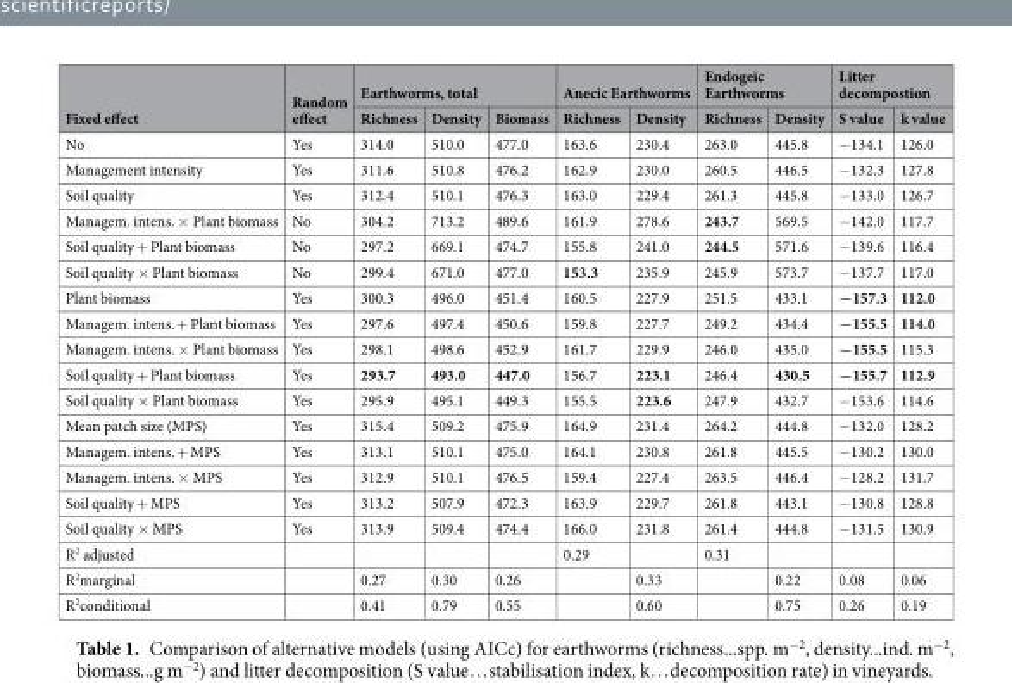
<table><thead><tr><td rowspan="2">Fixed effect</td><td rowspan="2">Random effect</td><td colspan="3">Earthworms, total</td><td colspan="2">Anecic Earthworms</td><td colspan="2">Endogeic Earthworms</td><td colspan="2">Litter decompostion</td></tr><tr><td>Richness</td><td>Density</td><td>Biomass</td><td>Richness</td><td>Density</td><td>Richness</td><td>Density</td><td>S value</td><td>k value</td></tr></thead><tbody><tr><td>No</td><td>Yes</td><td>314.0</td><td>510.0</td><td>477.0</td><td>163.6</td><td>230.4</td><td>263.0</td><td>445.8</td><td>−134.1</td><td>126.0</td></tr><tr><td>Management intensity</td><td>Yes</td><td>311.6</td><td>510.8</td><td>476.2</td><td>162.9</td><td>230.0</td><td>260.5</td><td>446.5</td><td>−132.3</td><td>127.8</td></tr><tr><td>Soil quality</td><td>Yes</td><td>312.4</td><td>510.1</td><td>476.3</td><td>163.0</td><td>229.4</td><td>261.3</td><td>445.8</td><td>−133.0</td><td>126.7</td></tr><tr><td>Managem. intens. × Plant biomass</td><td>No</td><td>304.2</td><td>713.2</td><td>489.6</td><td>161.9</td><td>278.6</td><td>243.7</td><td>569.5</td><td>−142.0</td><td>117.7</td></tr><tr><td>Soil quality + Plant biomass</td><td>No</td><td>297.2</td><td>669.1</td><td>474.7</td><td>155.8</td><td>241.0</td><td>244.5</td><td>571.6</td><td>−139.6</td><td>116.4</td></tr><tr><td>Soil quality × Plant biomass</td><td>No</td><td>299.4</td><td>671.0</td><td>477.0</td><td>153.3</td><td>235.9</td><td>245.9</td><td>573.7</td><td>−137.7</td><td>117.0</td></tr><tr><td>Plant biomass</td><td>Yes</td><td>300.3</td><td>496.0</td><td>451.4</td><td>160.5</td><td>227.9</td><td>251.5</td><td>433.1</td><td>−157.3</td><td>112.0</td></tr><tr><td>Managem. intens. + Plant biomass</td><td>Yes</td><td>297.6</td><td>497.4</td><td>450.6</td><td>159.8</td><td>227.7</td><td>249.2</td><td>434.4</td><td>−155.5</td><td>114.0</td></tr><tr><td>Managem. intens. × Plant biomass</td><td>Yes</td><td>298.1</td><td>498.6</td><td>452.9</td><td>161.7</td><td>229.9</td><td>246.0</td><td>435.0</td><td>−155.5</td><td>115.3</td></tr><tr><td>Soil quality + Plant biomass</td><td>Yes</td><td>293.7</td><td>493.0</td><td>447.0</td><td>156.7</td><td>223.1</td><td>246.4</td><td>430.5</td><td>−155.7</td><td>112.9</td></tr><tr><td>Soil quality × Plant biomass</td><td>Yes</td><td>295.9</td><td>495.1</td><td>449.3</td><td>155.5</td><td>223.6</td><td>247.9</td><td>432.7</td><td>−153.6</td><td>114.6</td></tr><tr><td>Mean patch size (MPS)</td><td>Yes</td><td>315.4</td><td>509.2</td><td>475.9</td><td>164.9</td><td>231.4</td><td>264.2</td><td>444.8</td><td>−132.0</td><td>128.2</td></tr><tr><td>Managem. intens. + MPS</td><td>Yes</td><td>313.1</td><td>510.1</td><td>475.0</td><td>164.1</td><td>230.8</td><td>261.8</td><td>445.5</td><td>−130.2</td><td>130.0</td></tr><tr><td>Managem. intens. × MPS</td><td>Yes</td><td>312.9</td><td>510.1</td><td>476.5</td><td>159.4</td><td>227.4</td><td>263.5</td><td>446.4</td><td>−128.2</td><td>131.7</td></tr><tr><td>Soil quality + MPS</td><td>Yes</td><td>313.2</td><td>507.9</td><td>472.3</td><td>163.9</td><td>229.7</td><td>261.8</td><td>443.1</td><td>−130.8</td><td>128.8</td></tr><tr><td>Soil quality × MPS</td><td>Yes</td><td>313.9</td><td>509.4</td><td>474.4</td><td>166.0</td><td>231.8</td><td>261.4</td><td>444.8</td><td>−131.5</td><td>130.9</td></tr><tr><td>R<sup>2</sup> adjusted</td><td></td><td></td><td></td><td></td><td>0.29</td><td></td><td>0.31</td><td></td><td></td><td></td></tr><tr><td>R<sup>2</sup>marginal</td><td></td><td>0.27</td><td>0.30</td><td>0.26</td><td></td><td>0.33</td><td></td><td>0.22</td><td>0.08</td><td>0.06</td></tr><tr><td>R<sup>2</sup>conditional</td><td></td><td>0.41</td><td>0.79</td><td>0.55</td><td></td><td>0.60</td><td></td><td>0.75</td><td>0.26</td><td>0.19</td></tr></tbody></table>